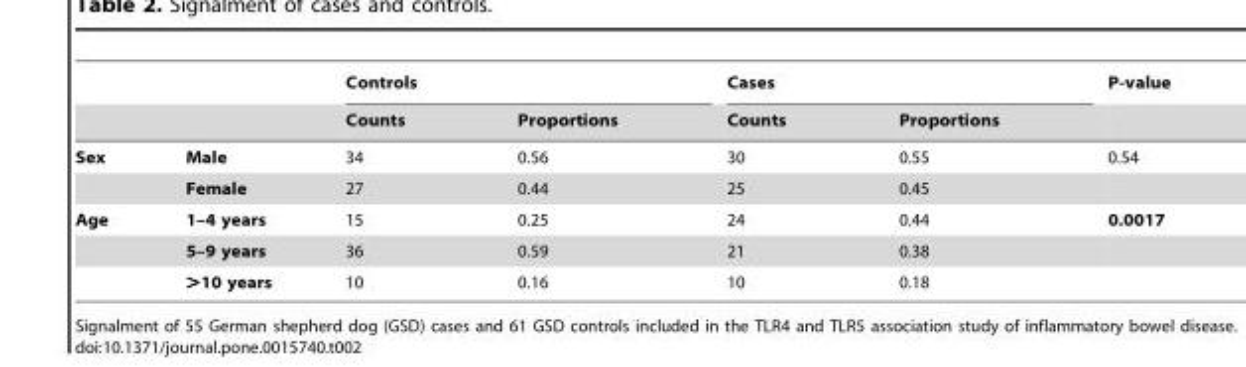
<table><thead><tr><td rowspan="2"></td><td rowspan="2"></td><td colspan="2">Controls</td><td colspan="2">Cases</td><td rowspan="2">P-value</td></tr><tr><td>Counts</td><td>Proportions</td><td>Counts</td><td>Proportions</td></tr></thead><tbody><tr><td rowspan="2">Sex</td><td>Male</td><td>34</td><td>0.56</td><td>30</td><td>0.55</td><td>0.54</td></tr><tr><td>Female</td><td>27</td><td>0.44</td><td>25</td><td>0.45</td><td></td></tr><tr><td rowspan="3">Age</td><td>1–4 years</td><td>15</td><td>0.25</td><td>24</td><td>0.44</td><td>0.0017</td></tr><tr><td>5–9 years</td><td>36</td><td>0.59</td><td>21</td><td>0.38</td><td></td></tr><tr><td>&gt;10 years</td><td>10</td><td>0.16</td><td>10</td><td>0.18</td><td></td></tr></tbody></table>